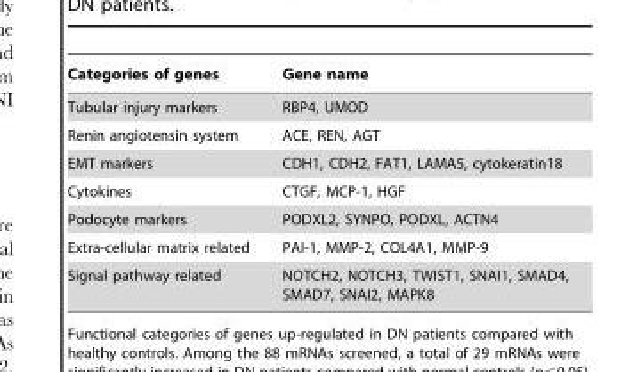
<table><thead><tr><td>Categories of genes</td><td>Gene name</td></tr></thead><tbody><tr><td>Tubular injury markers</td><td>RBP4, UMOD</td></tr><tr><td>Renin angiotensin system</td><td>ACE, REN, AGT</td></tr><tr><td>EMT markers</td><td>CDH1, CDH2, FAT1, LAMA5, cytokeratin18</td></tr><tr><td>Cytokines</td><td>CTGF, MCP-1, HGF</td></tr><tr><td>Podocyte markers</td><td>PODXL2, SYNPO, PODXL, ACTN4</td></tr><tr><td>Extra-cellular matrix related</td><td>PAI-1, MMP-2, COL4A1, MMP-9</td></tr><tr><td>Signal pathway related</td><td>NOTCH2, NOTCH3, TWIST1, SNAI1, SMAD4, SMAD7, SNAI2, MAPK8</td></tr></tbody></table>